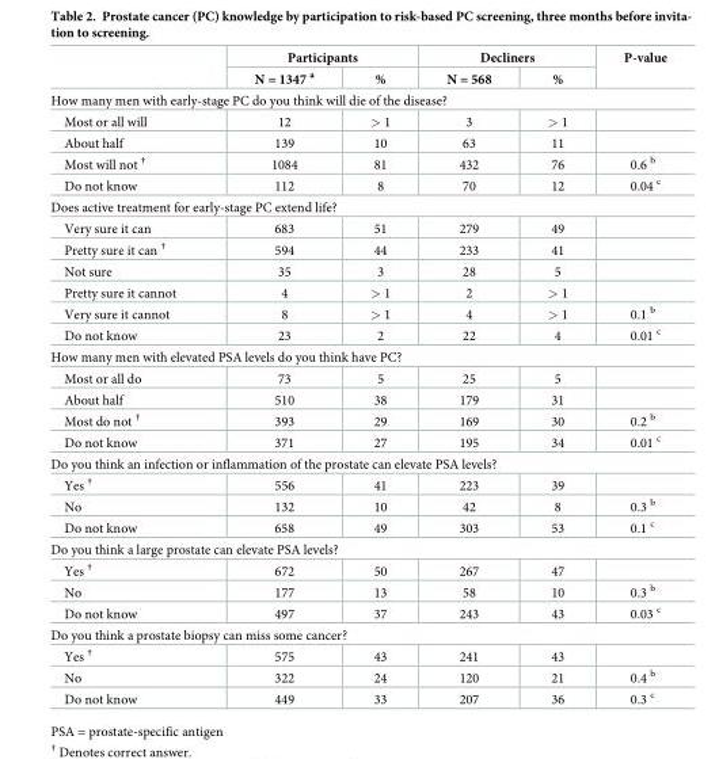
<table><thead><tr><td rowspan="2"></td><td colspan="2">Participants</td><td colspan="2">Decliners</td><td rowspan="2">P-value</td></tr><tr><td>N = 1347 <sup>a</sup></td><td>%</td><td>N = 568</td><td>%</td></tr></thead><tbody><tr><td colspan="6">How many men with early-stage PC do you think will die of the disease?</td></tr><tr><td>Most or all will</td><td>12</td><td>&gt; 1</td><td>3</td><td>&gt; 1</td><td></td></tr><tr><td>About half</td><td>139</td><td>10</td><td>63</td><td>11</td><td></td></tr><tr><td>Most will not <sup>†</sup></td><td>1084</td><td>81</td><td>432</td><td>76</td><td>0.6 <sup>b</sup></td></tr><tr><td>Do not know</td><td>112</td><td>8</td><td>70</td><td>12</td><td>0.04 <sup>c</sup></td></tr><tr><td colspan="6">Does active treatment for early-stage PC extend life?</td></tr><tr><td>Very sure it can</td><td>683</td><td>51</td><td>279</td><td>49</td><td></td></tr><tr><td>Pretty sure it can <sup>†</sup></td><td>594</td><td>44</td><td>233</td><td>41</td><td></td></tr><tr><td>Not sure</td><td>35</td><td>3</td><td>28</td><td>5</td><td></td></tr><tr><td>Pretty sure it cannot</td><td>4</td><td>&gt; 1</td><td>2</td><td>&gt; 1</td><td></td></tr><tr><td>Very sure it cannot</td><td>8</td><td>&gt; 1</td><td>4</td><td>&gt; 1</td><td>0.1 <sup>b</sup></td></tr><tr><td>Do not know</td><td>23</td><td>2</td><td>22</td><td>4</td><td>0.01 <sup>c</sup></td></tr><tr><td colspan="6">How many men with elevated PSA levels do you think have PC?</td></tr><tr><td>Most or all do</td><td>73</td><td>5</td><td>25</td><td>5</td><td></td></tr><tr><td>About half</td><td>510</td><td>38</td><td>179</td><td>31</td><td></td></tr><tr><td>Most do not <sup>†</sup></td><td>393</td><td>29</td><td>169</td><td>30</td><td>0.2 <sup>b</sup></td></tr><tr><td>Do not know</td><td>371</td><td>27</td><td>195</td><td>34</td><td>0.01 <sup>c</sup></td></tr><tr><td colspan="6">Do you think an infection or inflammation of the prostate can elevate PSA levels?</td></tr><tr><td>Yes <sup>†</sup></td><td>556</td><td>41</td><td>223</td><td>39</td><td></td></tr><tr><td>No</td><td>132</td><td>10</td><td>42</td><td>8</td><td>0.3 <sup>b</sup></td></tr><tr><td>Do not know</td><td>658</td><td>49</td><td>303</td><td>53</td><td>0.1 <sup>c</sup></td></tr><tr><td colspan="6">Do you think a large prostate can elevate PSA levels?</td></tr><tr><td>Yes <sup>†</sup></td><td>672</td><td>50</td><td>267</td><td>47</td><td></td></tr><tr><td>No</td><td>177</td><td>13</td><td>58</td><td>10</td><td>0.3 <sup>b</sup></td></tr><tr><td>Do not know</td><td>497</td><td>37</td><td>243</td><td>43</td><td>0.03 <sup>c</sup></td></tr><tr><td colspan="6">Do you think a prostate biopsy can miss some cancer?</td></tr><tr><td>Yes <sup>†</sup></td><td>575</td><td>43</td><td>241</td><td>43</td><td></td></tr><tr><td>No</td><td>322</td><td>24</td><td>120</td><td>21</td><td>0.4 <sup>b</sup></td></tr><tr><td>Do not know</td><td>449</td><td>33</td><td>207</td><td>36</td><td>0.3 <sup>c</sup></td></tr></tbody></table>